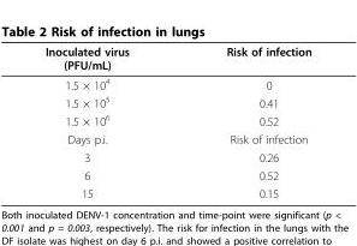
<table><thead><tr><td>Inoculated virus (PFU/mL)</td><td>Risk of infection</td></tr></thead><tbody><tr><td>1.5 × 10<sup>4</sup></td><td>0</td></tr><tr><td>1.5 × 10<sup>5</sup></td><td>0.41</td></tr><tr><td>1.5 × 10<sup>6</sup></td><td>0.52</td></tr><tr><td>Days p.i.</td><td>Risk of infection</td></tr><tr><td>3</td><td>0.26</td></tr><tr><td>6</td><td>0.52</td></tr><tr><td>15</td><td>0.15</td></tr></tbody></table>